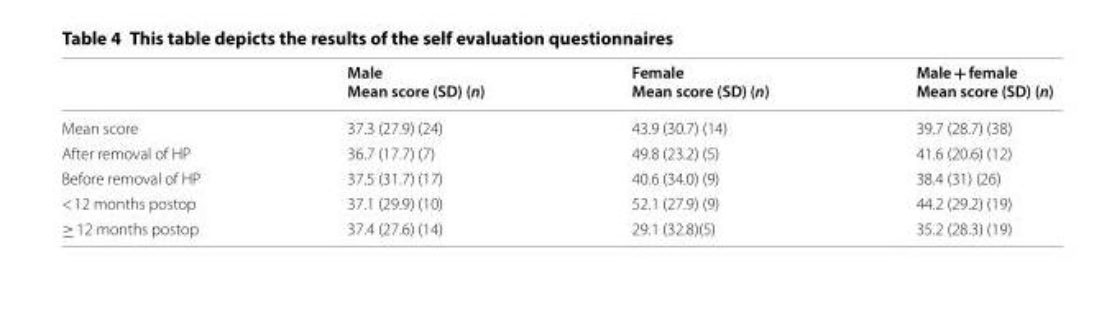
<table><thead><tr><td></td><td>Male Mean score (SD) (n)</td><td>Female Mean score (SD) (n)</td><td>Male + female Mean score (SD) (n)</td></tr></thead><tbody><tr><td>Mean score</td><td>37.3 (27.9) (24)</td><td>43.9 (30.7) (14)</td><td>39.7 (28.7) (38)</td></tr><tr><td>After removal of HP</td><td>36.7 (17.7) (7)</td><td>49.8 (23.2) (5)</td><td>41.6 (20.6) (12)</td></tr><tr><td>Before removal of HP</td><td>37.5 (31.7) (17)</td><td>40.6 (34.0) (9)</td><td>38.4 (31) (26)</td></tr><tr><td>&lt; 12 months postop</td><td>37.1 (29.9) (10)</td><td>52.1 (27.9) (9)</td><td>44.2 (29.2) (19)</td></tr><tr><td>≥ 12 months postop</td><td>37.4 (27.6) (14)</td><td>29.1 (32.8)(5)</td><td>35.2 (28.3) (19)</td></tr></tbody></table>